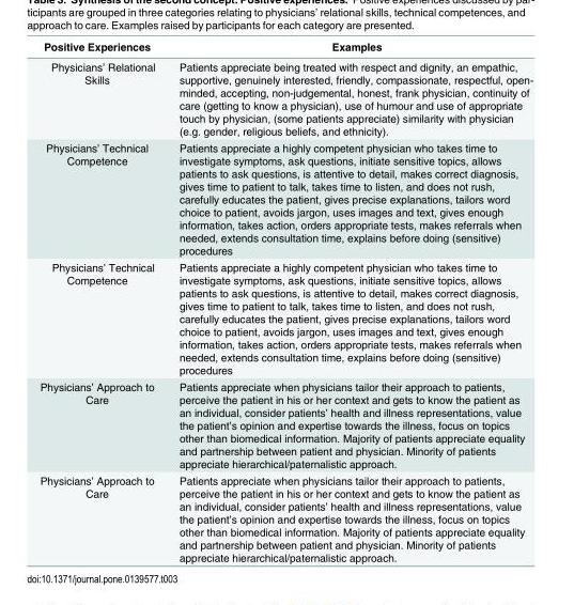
<table><thead><tr><td>Positive Experiences</td><td>Examples</td></tr></thead><tbody><tr><td>Physicians’ Relational Skills</td><td>Patients appreciate being treated with respect and dignity, an empathic, supportive, genuinely interested, friendly, compassionate, respectful, open- minded, accepting, non-judgemental, honest, frank physician, continuity of care (getting to know a physician), use of humour and use of appropriate touch by physician, (some patients appreciate) similarity with physician (e.g. gender, religious beliefs, and ethnicity).</td></tr><tr><td>Physicians’ Technical Competence</td><td>Patients appreciate a highly competent physician who takes time to investigate symptoms, ask questions, initiate sensitive topics, allows patients to ask questions, is attentive to detail, makes correct diagnosis, gives time to patient to talk, takes time to listen, and does not rush, carefully educates the patient, gives precise explanations, tailors word choice to patient, avoids jargon, uses images and text, gives enough information, takes action, orders appropriate tests, makes referrals when needed, extends consultation time, explains before doing (sensitive) procedures</td></tr><tr><td>Physicians’ Technical Competence</td><td>Patients appreciate a highly competent physician who takes time to investigate symptoms, ask questions, initiate sensitive topics, allows patients to ask questions, is attentive to detail, makes correct diagnosis, gives time to patient to talk, takes time to listen, and does not rush, carefully educates the patient, gives precise explanations, tailors word choice to patient, avoids jargon, uses images and text, gives enough information, takes action, orders appropriate tests, makes referrals when needed, extends consultation time, explains before doing (sensitive) procedures</td></tr><tr><td>Physicians’ Approach to Care</td><td>Patients appreciate when physicians tailor their approach to patients, perceive the patient in his or her context and gets to know the patient as an individual, consider patients’ health and illness representations, value the patient’s opinion and expertise towards the illness, focus on topics other than biomedical information. Majority of patients appreciate equality and partnership between patient and physician. Minority of patients appreciate hierarchical/paternalistic approach.</td></tr><tr><td>Physicians’ Approach to Care</td><td>Patients appreciate when physicians tailor their approach to patients, perceive the patient in his or her context and gets to know the patient as an individual, consider patients’ health and illness representations, value the patient’s opinion and expertise towards the illness, focus on topics other than biomedical information. Majority of patients appreciate equality and partnership between patient and physician. Minority of patients appreciate hierarchical/paternalistic approach.</td></tr></tbody></table>